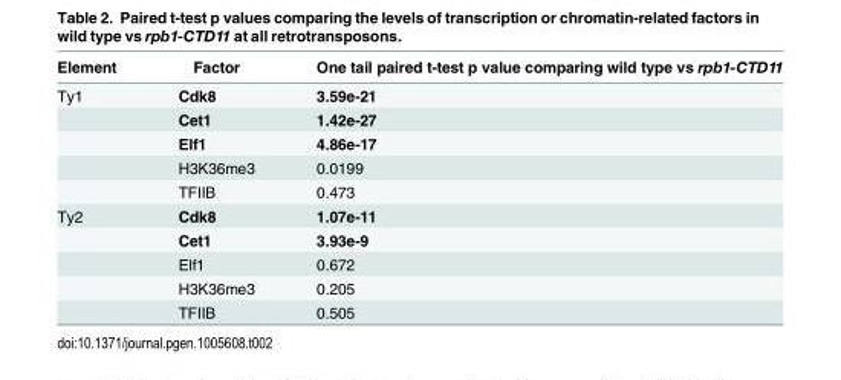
<table><thead><tr><td>Element</td><td>Factor</td><td>One tail paired t-test p value comparing wild type vs rpb1-CTD11</td></tr></thead><tbody><tr><td rowspan="5">Ty1</td><td>Cdk8</td><td>3.59e-21</td></tr><tr><td>Cet1</td><td>1.42e-27</td></tr><tr><td>Elf1</td><td>4.86e-17</td></tr><tr><td>H3K36me3</td><td>0.0199</td></tr><tr><td>TFIIB</td><td>0.473</td></tr><tr><td rowspan="5">Ty2</td><td>Cdk8</td><td>1.07e-11</td></tr><tr><td>Cet1</td><td>3.93e-9</td></tr><tr><td>Elf1</td><td>0.672</td></tr><tr><td>H3K36me3</td><td>0.205</td></tr><tr><td>TFIIB</td><td>0.505</td></tr></tbody></table>